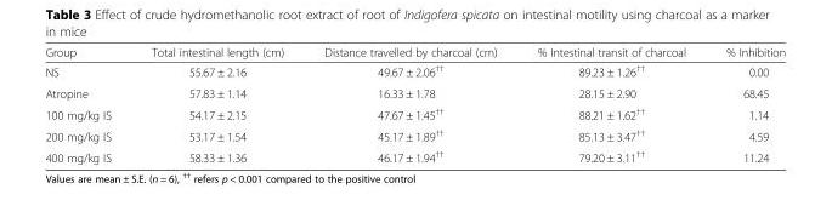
<table><thead><tr><td>Group</td><td>Total intestinal length (cm)</td><td>Distance travelled by charcoal (cm)</td><td>% Intestinal transit of charcoal</td><td>% Inhibition</td></tr></thead><tbody><tr><td>NS</td><td>55.67 ± 2.16</td><td>49.67 ± 2.06<sup>††</sup></td><td>89.23 ± 1.26<sup>††</sup></td><td>0.00</td></tr><tr><td>Atropine</td><td>57.83 ± 1.14</td><td>16.33 ± 1.78</td><td>28.15 ± 2.90</td><td>68.45</td></tr><tr><td>100 mg/kg IS</td><td>54.17 ± 2.15</td><td>47.67 ± 1.45<sup>††</sup></td><td>88.21 ± 1.62<sup>††</sup></td><td>1.14</td></tr><tr><td>200 mg/kg IS</td><td>53.17 ± 1.54</td><td>45.17 ± 1.89<sup>††</sup></td><td>85.13 ± 3.47<sup>††</sup></td><td>4.59</td></tr><tr><td>400 mg/kg IS</td><td>58.33 ± 1.36</td><td>46.17 ± 1.94<sup>††</sup></td><td>79.20 ± 3.11<sup>††</sup></td><td>11.24</td></tr></tbody></table>